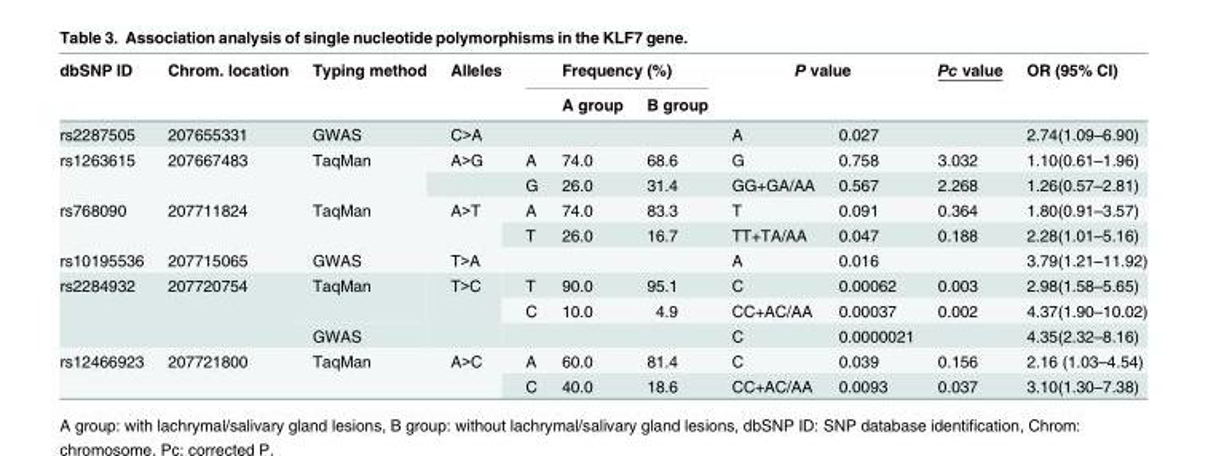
<table><thead><tr><td rowspan="3">dbSNP ID rs2287505</td><td rowspan="3">Chrom. location 207655331</td><td rowspan="3">Typing method GWAS</td><td rowspan="3">Alleles C&gt;A</td><td colspan="3">Frequency (%)</td><td rowspan="2" colspan="2">P value</td><td rowspan="3">Pc value</td><td rowspan="3">OR (95% CI) 2.74(1.09–6.90)</td></tr><tr><td rowspan="2"></td><td rowspan="2">A group</td><td rowspan="2">B group</td></tr><tr><td>A</td><td>0.027</td></tr></thead><tbody><tr><td rowspan="2">rs1263615</td><td rowspan="2">207667483</td><td rowspan="2">TaqMan</td><td>A&gt;G</td><td>A</td><td>74.0</td><td>68.6</td><td>G</td><td>0.758</td><td>3.032</td><td>1.10(0.61–1.96)</td></tr><tr><td></td><td>G</td><td>26.0</td><td>31.4</td><td>GG+GA/AA</td><td>0.567</td><td>2.268</td><td>1.26(0.57–2.81)</td></tr><tr><td rowspan="2">rs768090</td><td rowspan="2">207711824</td><td rowspan="2">TaqMan</td><td rowspan="2">A&gt;T</td><td>A</td><td>74.0</td><td>83.3</td><td>T</td><td>0.091</td><td>0.364</td><td>1.80(0.91–3.57)</td></tr><tr><td>T</td><td>26.0</td><td>16.7</td><td>TT+TA/AA</td><td>0.047</td><td>0.188</td><td>2.28(1.01–5.16)</td></tr><tr><td>rs10195536</td><td>207715065</td><td>GWAS</td><td>T&gt;A</td><td></td><td></td><td></td><td>A</td><td>0.016</td><td></td><td>3.79(1.21–11.92)</td></tr><tr><td rowspan="3">rs2284932</td><td rowspan="3">207720754</td><td rowspan="2">TaqMan</td><td rowspan="3">T&gt;C</td><td>T</td><td>90.0</td><td>95.1</td><td>C</td><td>0.00062</td><td>0.003</td><td>2.98(1.58–5.65)</td></tr><tr><td>C</td><td>10.0</td><td>4.9</td><td>CC+AC/AA</td><td>0.00037</td><td>0.002</td><td>4.37(1.90–10.02)</td></tr><tr><td>GWAS</td><td></td><td></td><td></td><td>C</td><td>0.0000021</td><td></td><td>4.35(2.32–8.16)</td></tr><tr><td rowspan="2">rs12466923</td><td rowspan="2">207721800</td><td rowspan="2">TaqMan</td><td rowspan="2">A&gt;C</td><td>A</td><td>60.0</td><td>81.4</td><td>C</td><td>0.039</td><td>0.156</td><td>2.16 (1.03–4.54)</td></tr><tr><td>C</td><td>40.0</td><td>18.6</td><td>CC+AC/AA</td><td>0.0093</td><td>0.037</td><td>3.10(1.30–7.38)</td></tr></tbody></table>